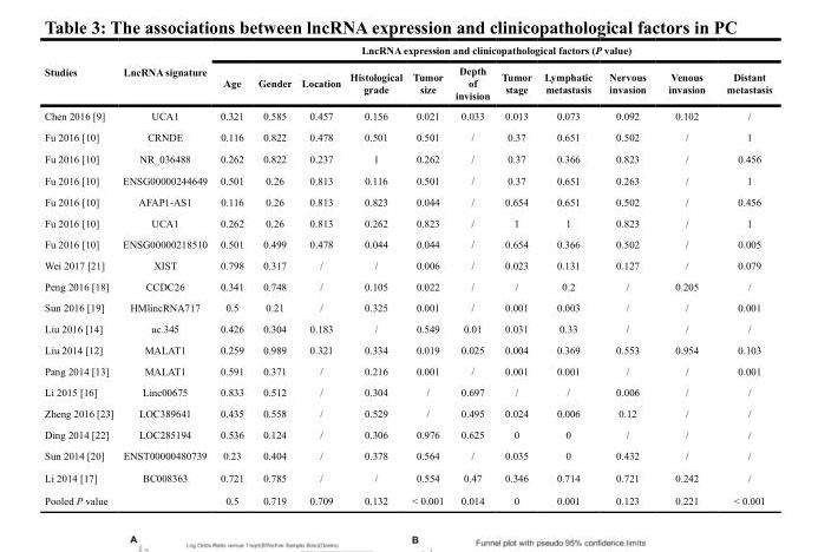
<table><thead><tr><td rowspan="2">Studies</td><td rowspan="2">LncRNA signature</td><td colspan="11">LncRNA expression and clinicopathological factors (P value)</td></tr><tr><td>Age</td><td>Gender</td><td>Location</td><td>Histological grade</td><td>Tumor size</td><td>Depth of invision</td><td>Tumor stage</td><td>Lymphatic metastasis</td><td>Nervous invasion</td><td>Venous invasion</td><td>Distant metastasis</td></tr></thead><tbody><tr><td>Chen 2016 [9]</td><td>UCA1</td><td>0.321</td><td>0.585</td><td>0.457</td><td>0.156</td><td>0.021</td><td>0.033</td><td>0.013</td><td>0.073</td><td>0.092</td><td>0.102</td><td>/</td></tr><tr><td>Fu 2016 [10]</td><td>CRNDE</td><td>0.116</td><td>0.822</td><td>0.478</td><td>0.501</td><td>0.501</td><td>/</td><td>0.37</td><td>0.651</td><td>0.502</td><td>/</td><td>1</td></tr><tr><td>Fu 2016 [10]</td><td>NR_036488</td><td>0.262</td><td>0.822</td><td>0.237</td><td>1</td><td>0.262</td><td>/</td><td>0.37</td><td>0.366</td><td>0.823</td><td>/</td><td>0.456</td></tr><tr><td>Fu 2016 [10]</td><td>ENSG00000244649</td><td>0.501</td><td>0.26</td><td>0.813</td><td>0.116</td><td>0.501</td><td>/</td><td>0.37</td><td>0.651</td><td>0.263</td><td>/</td><td>1</td></tr><tr><td>Fu 2016 [10]</td><td>AFAP1-AS1</td><td>0.116</td><td>0.26</td><td>0.813</td><td>0.823</td><td>0.044</td><td>/</td><td>0.654</td><td>0.651</td><td>0.502</td><td>/</td><td>0.456</td></tr><tr><td>Fu 2016 [10]</td><td>UCA1</td><td>0.262</td><td>0.26</td><td>0.813</td><td>0.262</td><td>0.823</td><td>/</td><td>1</td><td>1</td><td>0.823</td><td>/</td><td>1</td></tr><tr><td>Fu 2016 [10]</td><td>ENSG00000218510</td><td>0.501</td><td>0.499</td><td>0.478</td><td>0.044</td><td>0.044</td><td>/</td><td>0.654</td><td>0.366</td><td>0.502</td><td>/</td><td>0.005</td></tr><tr><td>Wei 2017 [21]</td><td>XIST</td><td>0.798</td><td>0.317</td><td>/</td><td>/</td><td>0.006</td><td>/</td><td>0.023</td><td>0.131</td><td>0.127</td><td>/</td><td>0.079</td></tr><tr><td>Peng 2016 [18]</td><td>CCDC26</td><td>0.341</td><td>0.748</td><td>/</td><td>0.105</td><td>0.022</td><td>/</td><td>/</td><td>0.2</td><td>/</td><td>0.205</td><td>/</td></tr><tr><td>Sun 2016 [19]</td><td>HMlincRNA717</td><td>0.5</td><td>0.21</td><td>/</td><td>0.325</td><td>0.001</td><td>/</td><td>0.001</td><td>0.003</td><td>/</td><td>/</td><td>0.001</td></tr><tr><td>Liu 2016 [14]</td><td>uc.345</td><td>0.426</td><td>0.304</td><td>0.183</td><td>/</td><td>0.549</td><td>0.01</td><td>0.031</td><td>0.33</td><td>/</td><td>/</td><td>/</td></tr><tr><td>Liu 2014 [12]</td><td>MALAT1</td><td>0.259</td><td>0.989</td><td>0.321</td><td>0.334</td><td>0.019</td><td>0.025</td><td>0.004</td><td>0.369</td><td>0.553</td><td>0.954</td><td>0.103</td></tr><tr><td>Pang 2014 [13]</td><td>MALAT1</td><td>0.591</td><td>0.371</td><td>/</td><td>0.216</td><td>0.001</td><td>/</td><td>0.001</td><td>0.001</td><td>/</td><td>/</td><td>0.001</td></tr><tr><td>Li 2015 [16]</td><td>Linc00675</td><td>0.833</td><td>0.512</td><td>/</td><td>0.304</td><td>/</td><td>0.697</td><td>/</td><td>/</td><td>0.006</td><td>/</td><td>/</td></tr><tr><td>Zheng 2016 [23]</td><td>LOC389641</td><td>0.435</td><td>0.558</td><td>/</td><td>0.529</td><td>/</td><td>0.495</td><td>0.024</td><td>0.006</td><td>0.12</td><td>/</td><td>/</td></tr><tr><td>Ding 2014 [22]</td><td>LOC285194</td><td>0.536</td><td>0.124</td><td>/</td><td>0.306</td><td>0.976</td><td>0.625</td><td>0</td><td>0</td><td>/</td><td>/</td><td>/</td></tr><tr><td>Sun 2014 [20]</td><td>ENST00000480739</td><td>0.23</td><td>0.404</td><td>/</td><td>0.378</td><td>0.564</td><td>/</td><td>0.035</td><td>0</td><td>0.432</td><td>/</td><td>/</td></tr><tr><td>Li 2014 [17]</td><td>BC008363</td><td>0.721</td><td>0.785</td><td>/</td><td>/</td><td>0.554</td><td>0.47</td><td>0.346</td><td>0.714</td><td>0.721</td><td>0.242</td><td>/</td></tr><tr><td colspan="2">Pooled P value</td><td>0.5</td><td>0.719</td><td>0.709</td><td>0.132</td><td>&lt; 0.001</td><td>0.014</td><td>0</td><td>0.001</td><td>0.123</td><td>0.221</td><td>&lt; 0.001</td></tr></tbody></table>